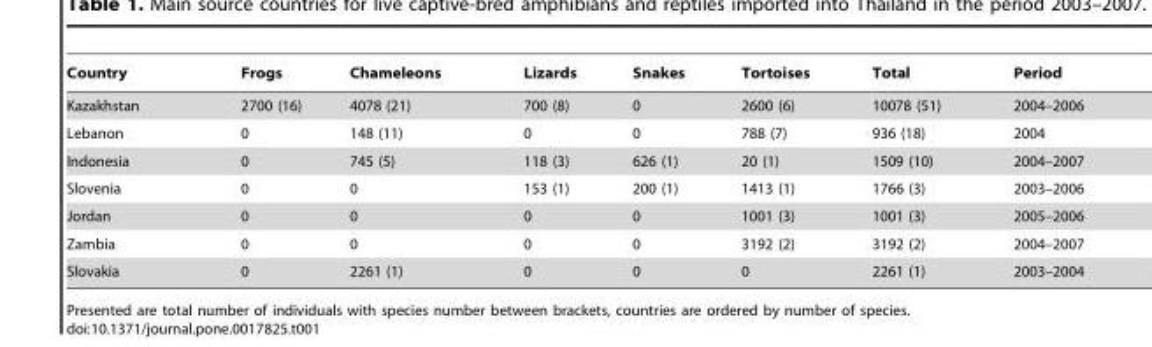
<table><thead><tr><td>Country</td><td>Frogs</td><td>Chameleons</td><td>Lizards</td><td>Snakes</td><td>Tortoises</td><td>Total</td><td>Period</td></tr></thead><tbody><tr><td>Kazakhstan</td><td>2700 (16)</td><td>4078 (21)</td><td>700 (8)</td><td>0</td><td>2600 (6)</td><td>10078 (51)</td><td>2004–2006</td></tr><tr><td>Lebanon</td><td>0</td><td>148 (11)</td><td>0</td><td>0</td><td>788 (7)</td><td>936 (18)</td><td>2004</td></tr><tr><td>Indonesia</td><td>0</td><td>745 (5)</td><td>118 (3)</td><td>626 (1)</td><td>20 (1)</td><td>1509 (10)</td><td>2004–2007</td></tr><tr><td>Slovenia</td><td>0</td><td>0</td><td>153 (1)</td><td>200 (1)</td><td>1413 (1)</td><td>1766 (3)</td><td>2003–2006</td></tr><tr><td>Jordan</td><td>0</td><td>0</td><td>0</td><td>0</td><td>1001 (3)</td><td>1001 (3)</td><td>2005–2006</td></tr><tr><td>Zambia</td><td>0</td><td>0</td><td>0</td><td>0</td><td>3192 (2)</td><td>3192 (2)</td><td>2004–2007</td></tr><tr><td>Slovakia</td><td>0</td><td>2261 (1)</td><td>0</td><td>0</td><td>0</td><td>2261 (1)</td><td>2003–2004</td></tr></tbody></table>